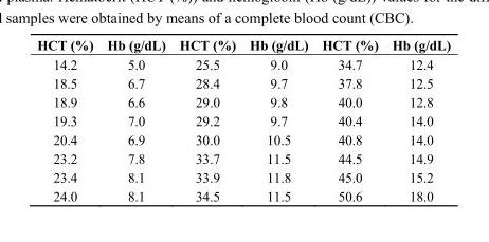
<table><thead><tr><td>HCT (%)</td><td>Hb (g/dL)</td><td>HCT (%)</td><td>Hb (g/dL)</td><td>HCT (%)</td><td>Hb (g/dL)</td></tr></thead><tbody><tr><td>14.2</td><td>5.0</td><td>25.5</td><td>9.0</td><td>34.7</td><td>12.4</td></tr><tr><td>18.5</td><td>6.7</td><td>28.4</td><td>9.7</td><td>37.8</td><td>12.5</td></tr><tr><td>18.9</td><td>6.6</td><td>29.0</td><td>9.8</td><td>40.0</td><td>12.8</td></tr><tr><td>19.3</td><td>7.0</td><td>29.2</td><td>9.7</td><td>40.4</td><td>14.0</td></tr><tr><td>20.4</td><td>6.9</td><td>30.0</td><td>10.5</td><td>40.8</td><td>14.0</td></tr><tr><td>23.2</td><td>7.8</td><td>33.7</td><td>11.5</td><td>44.5</td><td>14.9</td></tr><tr><td>23.4</td><td>8.1</td><td>33.9</td><td>11.8</td><td>45.0</td><td>15.2</td></tr><tr><td>24.0</td><td>8.1</td><td>34.5</td><td>11.5</td><td>50.6</td><td>18.0</td></tr></tbody></table>